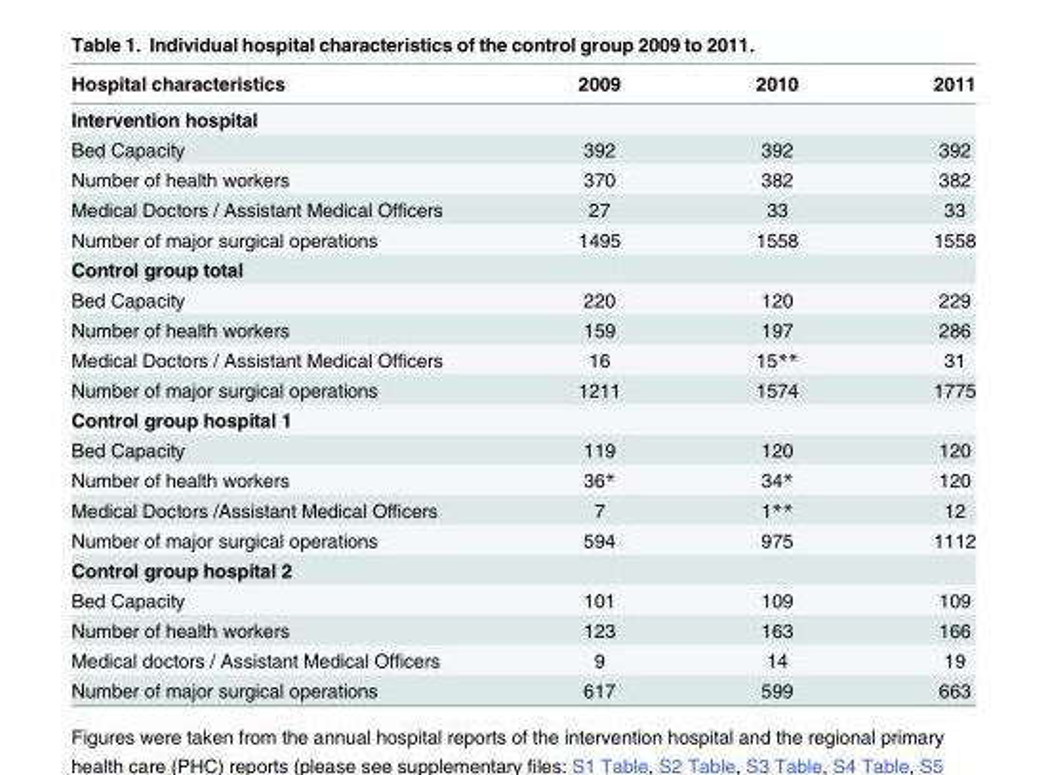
<table><thead><tr><td>Hospital characteristics</td><td>2009</td><td>2010</td><td>2011</td></tr></thead><tbody><tr><td colspan="4">Intervention hospital</td></tr><tr><td>Bed Capacity</td><td>392</td><td>392</td><td>392</td></tr><tr><td>Number of health workers</td><td>370</td><td>382</td><td>382</td></tr><tr><td>Medical Doctors / Assistant Medical Officers</td><td>27</td><td>33</td><td>33</td></tr><tr><td>Number of major surgical operations</td><td>1495</td><td>1558</td><td>1558</td></tr><tr><td colspan="4">Control group total</td></tr><tr><td>Bed Capacity</td><td>220</td><td>120</td><td>229</td></tr><tr><td>Number of health workers</td><td>159</td><td>197</td><td>286</td></tr><tr><td>Medical Doctors / Assistant Medical Officers</td><td>16</td><td>15**</td><td>31</td></tr><tr><td>Number of major surgical operations</td><td>1211</td><td>1574</td><td>1775</td></tr><tr><td colspan="4">Control group hospital 1</td></tr><tr><td>Bed Capacity</td><td>119</td><td>120</td><td>120</td></tr><tr><td>Number of health workers</td><td>36*</td><td>34*</td><td>120</td></tr><tr><td>Medical Doctors /Assistant Medical Officers</td><td>7</td><td>1**</td><td>12</td></tr><tr><td>Number of major surgical operations</td><td>594</td><td>975</td><td>1112</td></tr><tr><td colspan="4">Control group hospital 2</td></tr><tr><td>Bed Capacity</td><td>101</td><td>109</td><td>109</td></tr><tr><td>Number of health workers</td><td>123</td><td>163</td><td>166</td></tr><tr><td>Medical doctors / Assistant Medical Officers</td><td>9</td><td>14</td><td>19</td></tr><tr><td>Number of major surgical operations</td><td>617</td><td>599</td><td>663</td></tr></tbody></table>